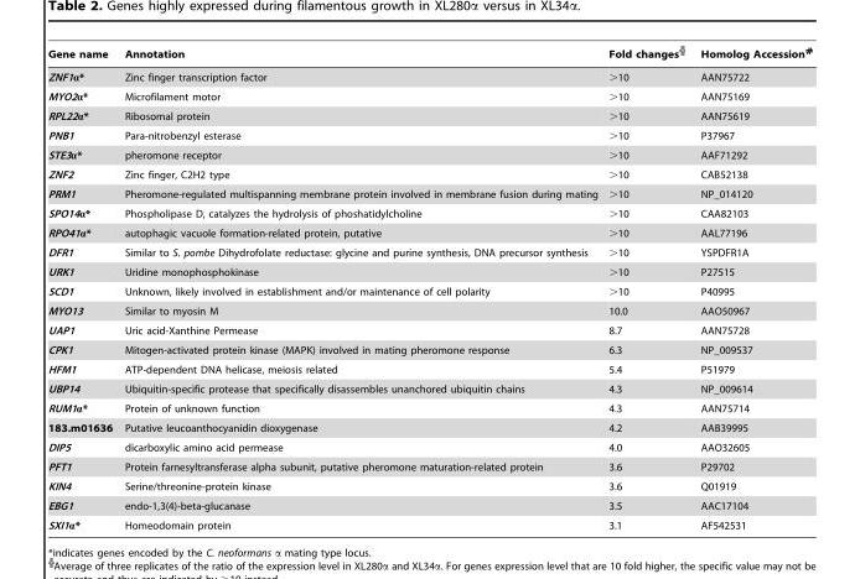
<table><thead><tr><td>Gene name</td><td>Annotation</td><td>Fold changes</td><td>Homolog Accession#</td></tr></thead><tbody><tr><td>ZNF1α*</td><td>Zinc finger transcription factor</td><td>&gt;10</td><td>AAN75722</td></tr><tr><td>MYO2α*</td><td>Microfilament motor</td><td>&gt;10</td><td>AAN75169</td></tr><tr><td>RPL22α*</td><td>Ribosomal protein</td><td>&gt;10</td><td>AAN75619</td></tr><tr><td>PNB1</td><td>Para-nitrobenzyl esterase</td><td>&gt;10</td><td>P37967</td></tr><tr><td>STE3α*</td><td>pheromone receptor</td><td>&gt;10</td><td>AAF71292</td></tr><tr><td>ZNF2</td><td>Zinc finger, C2H2 type</td><td>&gt;10</td><td>CAB52138</td></tr><tr><td>PRM1</td><td>Pheromone-regulated multispanning membrane protein involved in membrane fusion during mating</td><td>&gt;10</td><td>NP_014120</td></tr><tr><td>SPO14α*</td><td>Phospholipase D, catalyzes the hydrolysis of phoshatidylcholine</td><td>&gt;10</td><td>CAA82103</td></tr><tr><td>RPO41α*</td><td>autophagic vacuole formation-related protein, putative</td><td>&gt;10</td><td>AAL77196</td></tr><tr><td>DFR1</td><td>Similar to S. pombe Dihydrofolate reductase: glycine and purine synthesis, DNA precursor synthesis</td><td>&gt;10</td><td>YSPDFR1A</td></tr><tr><td>URK1</td><td>Uridine monophosphokinase</td><td>&gt;10</td><td>P27515</td></tr><tr><td>SCD1</td><td>Unknown, likely involved in establishment and/or maintenance of cell polarity</td><td>&gt;10</td><td>P40995</td></tr><tr><td>MYO13</td><td>Similar to myosin M</td><td>10.0</td><td>AAO50967</td></tr><tr><td>UAP1</td><td>Uric acid-Xanthine Permease</td><td>8.7</td><td>AAN75728</td></tr><tr><td>CPK1</td><td>Mitogen-activated protein kinase (MAPK) involved in mating pheromone response</td><td>6.3</td><td>NP_009537</td></tr><tr><td>HFM1</td><td>ATP-dependent DNA helicase, meiosis related</td><td>5.4</td><td>P51979</td></tr><tr><td>UBP14</td><td>Ubiquitin-specific protease that specifically disassembles unanchored ubiquitin chains</td><td>4.3</td><td>NP_009614</td></tr><tr><td>RUM1α*</td><td>Protein of unknown function</td><td>4.3</td><td>AAN75714</td></tr><tr><td>183.m01636</td><td>Putative leucoanthocyanidin dioxygenase</td><td>4.2</td><td>AAB39995</td></tr><tr><td>DIP5</td><td>dicarboxylic amino acid permease</td><td>4.0</td><td>AAO32605</td></tr><tr><td>PFT1</td><td>Protein farnesyltransferase alpha subunit, putative pheromone maturation-related protein</td><td>3.6</td><td>P29702</td></tr><tr><td>KIN4</td><td>Serine/threonine-protein kinase</td><td>3.6</td><td>Q01919</td></tr><tr><td>EBG1</td><td>endo-1,3(4)-beta-glucanase</td><td>3.5</td><td>AAC17104</td></tr><tr><td>SXI1α*</td><td>Homeodomain protein</td><td>3.1</td><td>AF542531</td></tr></tbody></table>